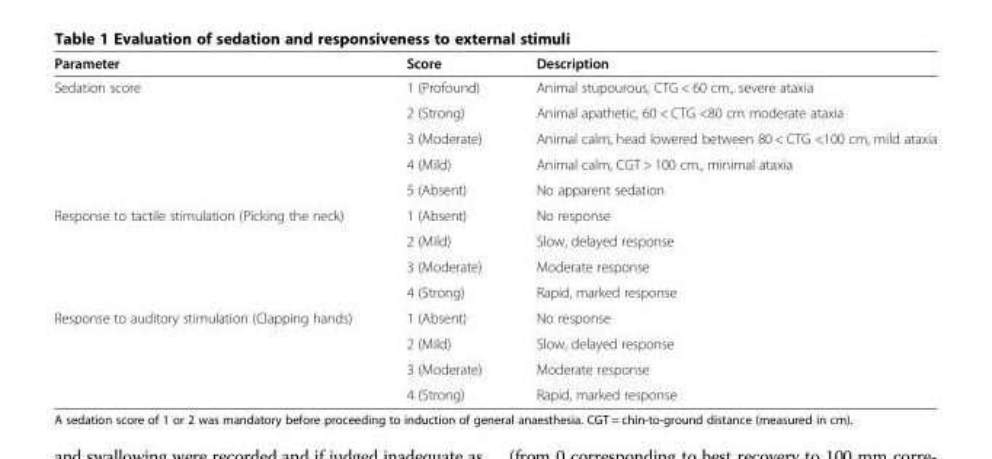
<table><thead><tr><td>Parameter</td><td>Score</td><td>Description</td></tr></thead><tbody><tr><td rowspan="5">Sedation score</td><td>1 (Profound)</td><td>Animal stupourous, CTG &lt; 60 cm., severe ataxia</td></tr><tr><td>2 (Strong)</td><td>Animal apathetic, 60 &lt; CTG &lt;80 cm moderate ataxia</td></tr><tr><td>3 (Moderate)</td><td>Animal calm, head lowered between 80 &lt; CTG &lt;100 cm, mild ataxia</td></tr><tr><td>4 (Mild)</td><td>Animal calm, CGT &gt; 100 cm., minimal ataxia</td></tr><tr><td>5 (Absent)</td><td>No apparent sedation</td></tr><tr><td rowspan="4">Response to tactile stimulation (Picking the neck)</td><td>1 (Absent)</td><td>No response</td></tr><tr><td>2 (Mild)</td><td>Slow, delayed response</td></tr><tr><td>3 (Moderate)</td><td>Moderate response</td></tr><tr><td>4 (Strong)</td><td>Rapid, marked response</td></tr><tr><td rowspan="4">Response to auditory stimulation (Clapping hands)</td><td>1 (Absent)</td><td>No response</td></tr><tr><td>2 (Mild)</td><td>Slow, delayed response</td></tr><tr><td>3 (Moderate)</td><td>Moderate response</td></tr><tr><td>4 (Strong)</td><td>Rapid, marked response</td></tr></tbody></table>